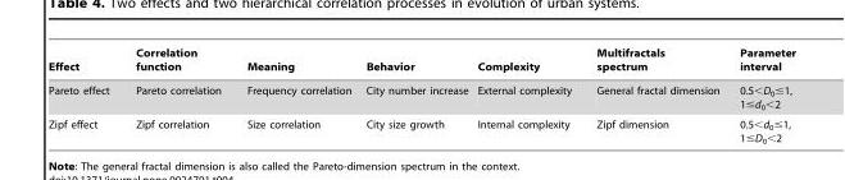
<table><thead><tr><td>Effect</td><td>Correlation function</td><td>Meaning</td><td>Behavior</td><td>Complexity</td><td>Multifractals spectrum</td><td>Parameter interval</td></tr></thead><tbody><tr><td>Pareto effect</td><td>Pareto correlation</td><td>Frequency correlation</td><td>City number increase</td><td>External complexity</td><td>General fractal dimension</td><td>0.5&lt;D0≤1, 1≤d0&lt;2</td></tr><tr><td>Zipf effect</td><td>Zipf correlation</td><td>Size correlation</td><td>City size growth</td><td>Internal complexity</td><td>Zipf dimension</td><td>0.5,d0#1,</td></tr></tbody></table>